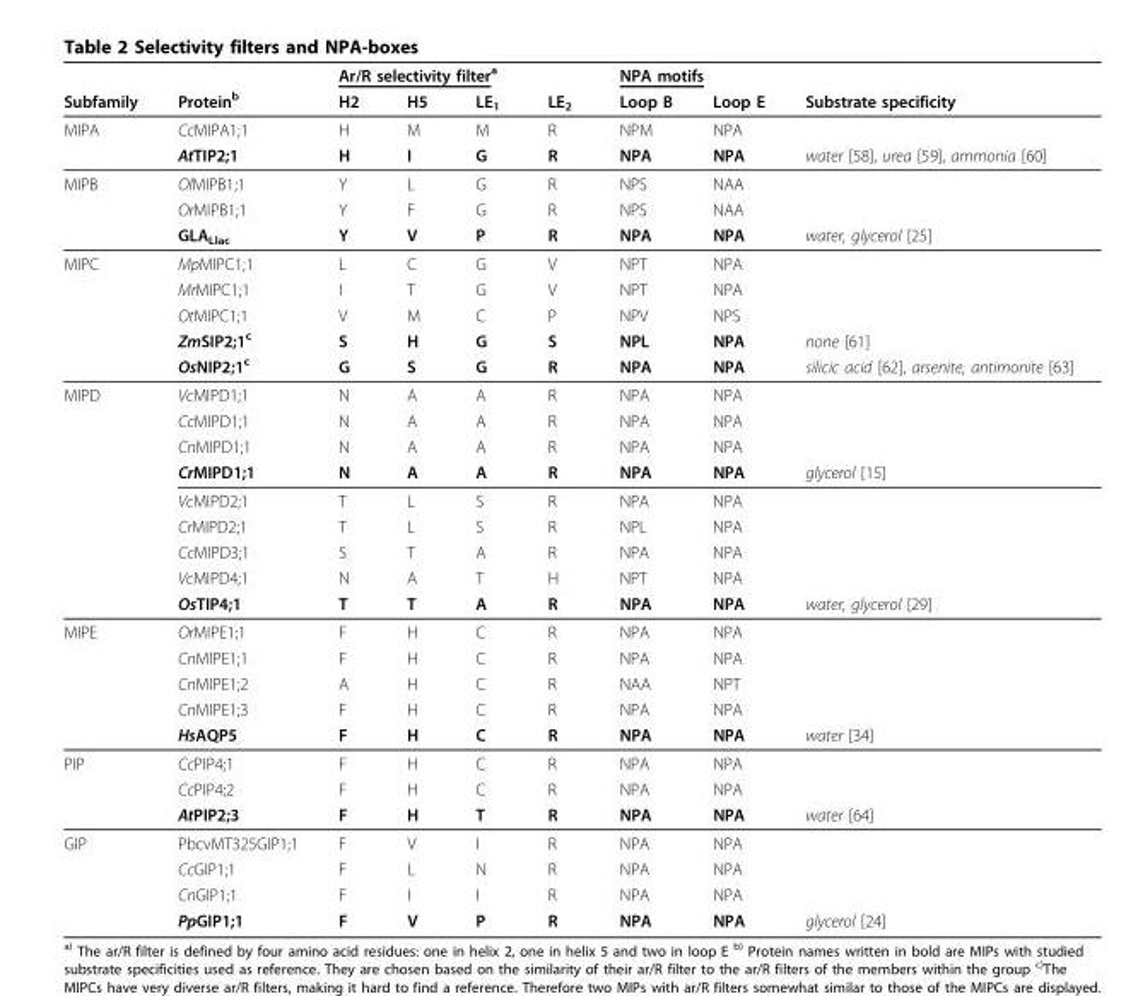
<table><thead><tr><td rowspan="2">Subfamily</td><td rowspan="2">Protein<sup>b</sup></td><td colspan="4">Ar/R selectivity filter<sup>a</sup></td><td colspan="2">NPA motifs</td><td rowspan="2">Substrate specificity</td></tr><tr><td>H2</td><td>H5</td><td>LE<sub>1</sub></td><td>LE<sub>2</sub></td><td>Loop B</td><td>Loop E</td></tr></thead><tbody><tr><td rowspan="2">MIPA</td><td>CcMIPA1;1</td><td>H</td><td>M</td><td>M</td><td>R</td><td>NPM</td><td>NPA</td><td></td></tr><tr><td>AtTIP2;1</td><td>H</td><td>I</td><td>G</td><td>R</td><td>NPA</td><td>NPA</td><td>water [58], urea [59], ammonia [60]</td></tr><tr><td rowspan="3">MIPB</td><td>OlMIPB1;1</td><td>Y</td><td>L</td><td>G</td><td>R</td><td>NPS</td><td>NAA</td><td></td></tr><tr><td>OrMIPB1;1</td><td>Y</td><td>F</td><td>G</td><td>R</td><td>NPS</td><td>NAA</td><td></td></tr><tr><td>GLA<sub>Llac</sub></td><td>Y</td><td>V</td><td>P</td><td>R</td><td>NPA</td><td>NPA</td><td>water, glycerol [25]</td></tr><tr><td rowspan="5">MIPC</td><td>MpMIPC1;1</td><td>L</td><td>C</td><td>G</td><td>V</td><td>NPT</td><td>NPA</td><td></td></tr><tr><td>MrMIPC1;1</td><td>I</td><td>T</td><td>G</td><td>V</td><td>NPT</td><td>NPA</td><td></td></tr><tr><td>OtMIPC1;1</td><td>V</td><td>M</td><td>C</td><td>P</td><td>NPV</td><td>NPS</td><td></td></tr><tr><td>ZmSIP2;1<sup>c</sup></td><td>S</td><td>H</td><td>G</td><td>S</td><td>NPL</td><td>NPA</td><td>none [61]</td></tr><tr><td>OsNIP2;1<sup>c</sup></td><td>G</td><td>S</td><td>G</td><td>R</td><td>NPA</td><td>NPA</td><td>silicic acid [62], arsenite, antimonite [63]</td></tr><tr><td rowspan="9">MIPD</td><td>VcMIPD1;1</td><td>N</td><td>A</td><td>A</td><td>R</td><td>NPA</td><td>NPA</td><td></td></tr><tr><td>CcMIPD1;1</td><td>N</td><td>A</td><td>A</td><td>R</td><td>NPA</td><td>NPA</td><td></td></tr><tr><td>CnMIPD1;1</td><td>N</td><td>A</td><td>A</td><td>R</td><td>NPA</td><td>NPA</td><td></td></tr><tr><td>CrMIPD1;1</td><td>N</td><td>A</td><td>A</td><td>R</td><td>NPA</td><td>NPA</td><td>glycerol [15]</td></tr><tr><td>VcMIPD2;1</td><td>T</td><td>L</td><td>S</td><td>R</td><td>NPA</td><td>NPA</td><td></td></tr><tr><td>CrMIPD2;1</td><td>T</td><td>L</td><td>S</td><td>R</td><td>NPL</td><td>NPA</td><td></td></tr><tr><td>CcMIPD3;1</td><td>S</td><td>T</td><td>A</td><td>R</td><td>NPA</td><td>NPA</td><td></td></tr><tr><td>VcMIPD4;1</td><td>N</td><td>A</td><td>T</td><td>H</td><td>NPT</td><td>NPA</td><td></td></tr><tr><td>OsTIP4;1</td><td>T</td><td>T</td><td>A</td><td>R</td><td>NPA</td><td>NPA</td><td>water, glycerol [29]</td></tr><tr><td rowspan="5">MIPE</td><td>OrMIPE1;1</td><td>F</td><td>H</td><td>C</td><td>R</td><td>NPA</td><td>NPA</td><td></td></tr><tr><td>CnMIPE1;1</td><td>F</td><td>H</td><td>C</td><td>R</td><td>NPA</td><td>NPA</td><td></td></tr><tr><td>CnMIPE1;2</td><td>A</td><td>H</td><td>C</td><td>R</td><td>NAA</td><td>NPT</td><td></td></tr><tr><td>CnMIPE1;3</td><td>F</td><td>H</td><td>C</td><td>R</td><td>NPA</td><td>NPA</td><td></td></tr><tr><td>HsAQP5</td><td>F</td><td>H</td><td>C</td><td>R</td><td>NPA</td><td>NPA</td><td>water [34]</td></tr><tr><td rowspan="3">PIP</td><td>CcPIP4;1</td><td>F</td><td>H</td><td>C</td><td>R</td><td>NPA</td><td>NPA</td><td></td></tr><tr><td>CcPIP4;2</td><td>F</td><td>H</td><td>C</td><td>R</td><td>NPA</td><td>NPA</td><td></td></tr><tr><td>AtPIP2;3</td><td>F</td><td>H</td><td>T</td><td>R</td><td>NPA</td><td>NPA</td><td>water [64]</td></tr><tr><td rowspan="4">GIP</td><td>PbcvMT325GIP1;1</td><td>F</td><td>V</td><td>I</td><td>R</td><td>NPA</td><td>NPA</td><td></td></tr><tr><td>CcGIP1;1</td><td>F</td><td>L</td><td>N</td><td>R</td><td>NPA</td><td>NPA</td><td></td></tr><tr><td>CnGIP1;1</td><td>F</td><td>I</td><td>I</td><td>R</td><td>NPA</td><td>NPA</td><td></td></tr><tr><td>PpGIP1;1</td><td>F</td><td>V</td><td>P</td><td>R</td><td>NPA</td><td>NPA</td><td>glycerol [24]</td></tr></tbody></table>